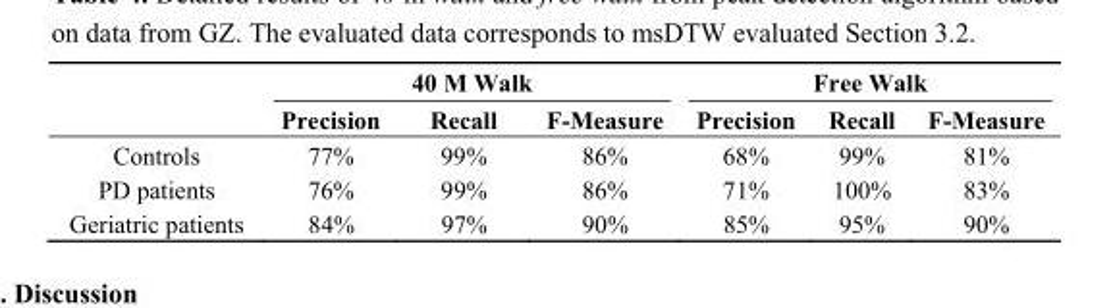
<table><thead><tr><td rowspan="2"></td><td colspan="3">40 M Walk</td><td colspan="3">Free Walk</td></tr><tr><td>Precision</td><td>Recall</td><td>F-Measure</td><td>Precision</td><td>Recall</td><td>F-Measure</td></tr></thead><tbody><tr><td>Controls</td><td>77%</td><td>99%</td><td>86%</td><td>68%</td><td>99%</td><td>81%</td></tr><tr><td>PD patients</td><td>76%</td><td>99%</td><td>86%</td><td>71%</td><td>100%</td><td>83%</td></tr><tr><td>Geriatric patients</td><td>84%</td><td>97%</td><td>90%</td><td>85%</td><td>95%</td><td>90%</td></tr></tbody></table>